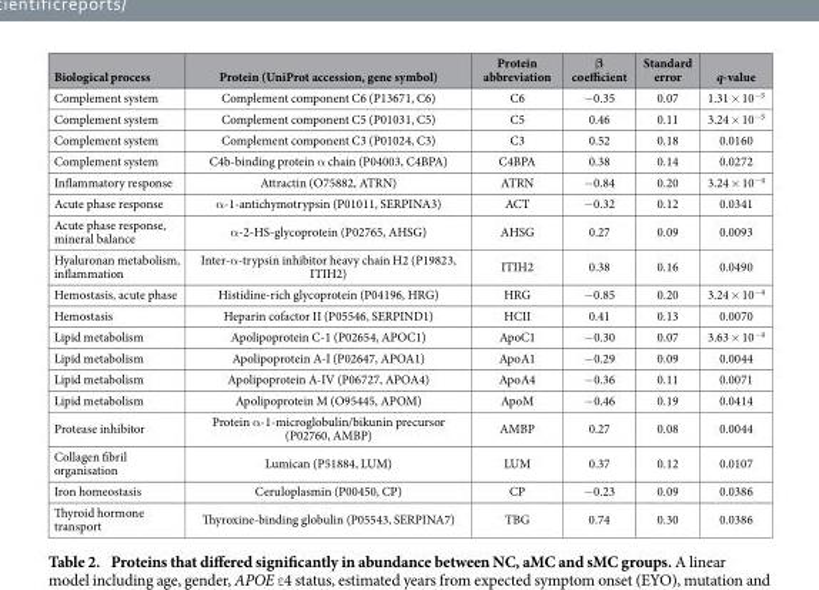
<table><thead><tr><td>Biological process</td><td>Protein (UniProt accession, gene symbol)</td><td>Protein abbreviation</td><td>β coefficient</td><td>Standard error</td><td>q-value</td></tr></thead><tbody><tr><td>Complement system</td><td>Complement component C6 (P13671, C6)</td><td>C6</td><td>− 0.35</td><td>0.07</td><td>1.31 × 10<sup>−5</sup></td></tr><tr><td>Complement system</td><td>Complement component C5 (P01031, C5)</td><td>C5</td><td>0.46</td><td>0.11</td><td>3.24 × 10<sup>−5</sup></td></tr><tr><td>Complement system</td><td>Complement component C3 (P01024, C3)</td><td>C3</td><td>0.52</td><td>0.18</td><td>0.0160</td></tr><tr><td>Complement system</td><td>C4b-binding protein α chain (P04003, C4BPA)</td><td>C4BPA</td><td>0.38</td><td>0.14</td><td>0.0272</td></tr><tr><td>Inflammatory response</td><td>Attractin (O75882, ATRN)</td><td>ATRN</td><td>− 0.84</td><td>0.20</td><td>3.24 × 10<sup>−4</sup></td></tr><tr><td>Acute phase response</td><td>α -1-antichymotrypsin (P01011, SERPINA3)</td><td>ACT</td><td>− 0.32</td><td>0.12</td><td>0.0341</td></tr><tr><td>Acute phase response, mineral balance</td><td>α -2-HS-glycoprotein (P02765, AHSG)</td><td>AHSG</td><td>0.27</td><td>0.09</td><td>0.0093</td></tr><tr><td>Hyaluronan metabolism, inflammation</td><td>Inter-α -trypsin inhibitor heavy chain H2 (P19823, ITIH2)</td><td>ITIH2</td><td>0.38</td><td>0.16</td><td>0.0490</td></tr><tr><td>Hemostasis, acute phase</td><td>Histidine-rich glycoprotein (P04196, HRG)</td><td>HRG</td><td>− 0.85</td><td>0.20</td><td>3.24 × 10<sup>−4</sup></td></tr><tr><td>Hemostasis</td><td>Heparin cofactor II (P05546, SERPIND1)</td><td>HCII</td><td>0.41</td><td>0.13</td><td>0.0070</td></tr><tr><td>Lipid metabolism</td><td>Apolipoprotein C-1 (P02654, APOC1)</td><td>ApoC1</td><td>− 0.30</td><td>0.07</td><td>3.63 × 10<sup>−4</sup></td></tr><tr><td>Lipid metabolism</td><td>Apolipoprotein A-I (P02647, APOA1)</td><td>ApoA1</td><td>− 0.29</td><td>0.09</td><td>0.0044</td></tr><tr><td>Lipid metabolism</td><td>Apolipoprotein A-IV (P06727, APOA4)</td><td>ApoA4</td><td>− 0.36</td><td>0.11</td><td>0.0071</td></tr><tr><td>Lipid metabolism</td><td>Apolipoprotein M (O95445, APOM)</td><td>ApoM</td><td>− 0.46</td><td>0.19</td><td>0.0414</td></tr><tr><td>Protease inhibitor</td><td>Protein α -1-microglobulin/bikunin precursor (P02760, AMBP)</td><td>AMBP</td><td>0.27</td><td>0.08</td><td>0.0044</td></tr><tr><td>Collagen fibril organisation</td><td>Lumican (P51884, LUM)</td><td>LUM</td><td>0.37</td><td>0.12</td><td>0.0107</td></tr><tr><td>Iron homeostasis</td><td>Ceruloplasmin (P00450, CP)</td><td>CP</td><td>− 0.23</td><td>0.09</td><td>0.0386</td></tr><tr><td>Thyroid hormone transport</td><td>Thyroxine-binding globulin (P05543, SERPINA7)</td><td>TBG</td><td>0.74</td><td>0.30</td><td>0.0386</td></tr></tbody></table>